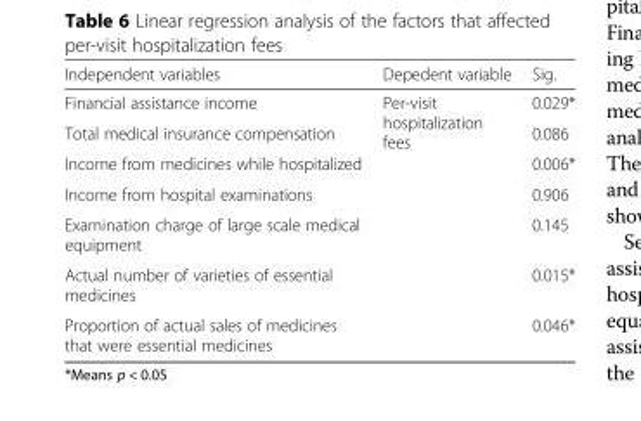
<table><thead><tr><td>Independent variables</td><td>Depedent variable</td><td>Sig.</td></tr></thead><tbody><tr><td>Financial assistance income</td><td rowspan="7">Per-visit hospitalization fees</td><td>0.029*</td></tr><tr><td>Total medical insurance compensation</td><td>0.086</td></tr><tr><td>Income from medicines while hospitalized</td><td>0.006*</td></tr><tr><td>Income from hospital examinations</td><td>0.906</td></tr><tr><td>Examination charge of large scale medical equipment</td><td>0.145</td></tr><tr><td>Actual number of varieties of essential medicines</td><td>0.015*</td></tr><tr><td>Proportion of actual sales of medicines that were essential medicines</td><td>0.046*</td></tr></tbody></table>